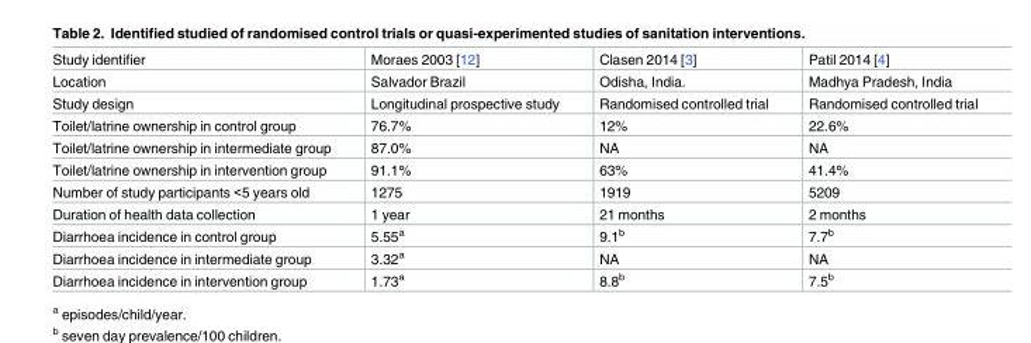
<table><tbody><tr><td>Study identifier</td><td>Moraes 2003 [12]</td><td>Clasen 2014 [3]</td><td>Patil 2014 [4]</td></tr><tr><td>Location</td><td>Salvador Brazil</td><td>Odisha, India.</td><td>Madhya Pradesh, India</td></tr><tr><td>Study design</td><td>Longitudinal prospective study</td><td>Randomised controlled trial</td><td>Randomised controlled trial</td></tr><tr><td>Toilet/latrine ownership in control group</td><td>76.7%</td><td>12%</td><td>22.6%</td></tr><tr><td>Toilet/latrine ownership in intermediate group</td><td>87.0%</td><td>NA</td><td>NA</td></tr><tr><td>Toilet/latrine ownership in intervention group</td><td>91.1%</td><td>63%</td><td>41.4%</td></tr><tr><td>Number of study participants &lt;5 years old</td><td>1275</td><td>1919</td><td>5209</td></tr><tr><td>Duration of health data collection</td><td>1 year</td><td>21 months</td><td>2 months</td></tr><tr><td>Diarrhoea incidence in control group</td><td>5.55a</td><td>9.1b</td><td>7.7b</td></tr><tr><td>Diarrhoea incidence in intermediate group</td><td>3.32a</td><td>NA</td><td>NA</td></tr><tr><td>Diarrhoea incidence in intervention group</td><td>1.73a</td><td>8.8b</td><td>7.5b</td></tr></tbody></table>